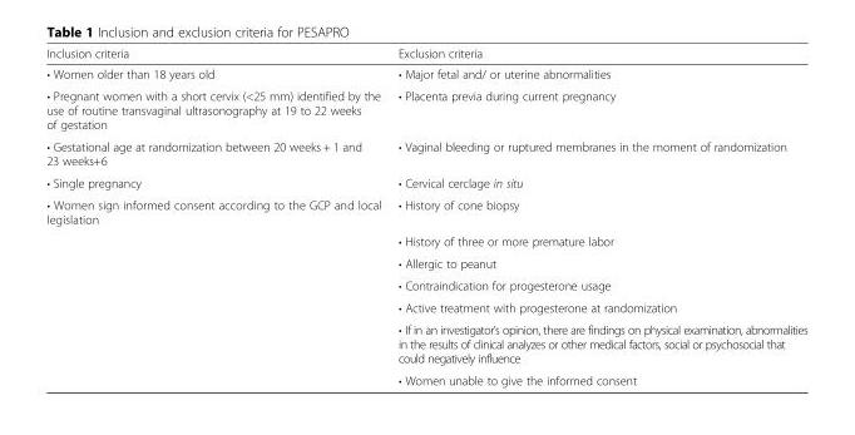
<table><thead><tr><td>Inclusion criteria</td><td>Exclusion criteria</td></tr></thead><tbody><tr><td>• Women older than 18 years old</td><td>• Major fetal and/ or uterine abnormalities</td></tr><tr><td>• Pregnant women with a short cervix (&lt;25 mm) identified by the use of routine transvaginal ultrasonography at 19 to 22 weeks of gestation</td><td>• Placenta previa during current pregnancy</td></tr><tr><td>• Gestational age at randomization between 20 weeks + 1 and 23 weeks+6</td><td>• Vaginal bleeding or ruptured membranes in the moment of randomization</td></tr><tr><td>• Single pregnancy</td><td>• Cervical cerclage in situ</td></tr><tr><td rowspan="7">• Women sign informed consent according to the GCP and local legislation</td><td>• History of cone biopsy</td></tr><tr><td>• History of three or more premature labor</td></tr><tr><td>• Allergic to peanut</td></tr><tr><td>• Contraindication for progesterone usage</td></tr><tr><td>• Active treatment with progesterone at randomization</td></tr><tr><td>• If in an investigator’s opinion, there are findings on physical examination, abnormalities in the results of clinical analyzes or other medical factors, social or psychosocial that could negatively influence</td></tr><tr><td>• Women unable to give the informed consent</td></tr></tbody></table>